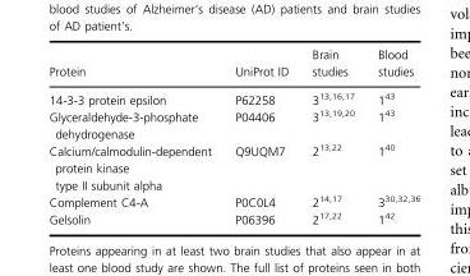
<table><thead><tr><td>Protein</td><td>UniProt ID</td><td>Brain studies</td><td>Blood studies</td></tr></thead><tbody><tr><td>14-3-3 protein epsilon</td><td>P62258</td><td>3<sup>13</sup>,<sup>16</sup>,<sup>17</sup></td><td>1<sup>43</sup></td></tr><tr><td>Glyceraldehyde-3-phosphate dehydrogenase</td><td>P04406</td><td>3<sup>13</sup>,<sup>19</sup>,<sup>20</sup></td><td>1<sup>43</sup></td></tr><tr><td>Calcium/calmodulin-dependent protein kinase type II subunit alpha</td><td>Q9UQM7</td><td>2<sup>13</sup>,<sup>22</sup></td><td>1<sup>40</sup></td></tr><tr><td>Complement C4-A</td><td>P0C0L4</td><td>2<sup>14</sup>,<sup>17</sup></td><td>3<sup>30</sup>,<sup>32</sup>,<sup>36</sup></td></tr><tr><td>Gelsolin</td><td>P06396</td><td>2<sup>17</sup>,<sup>22</sup></td><td>1<sup>42</sup></td></tr></tbody></table>